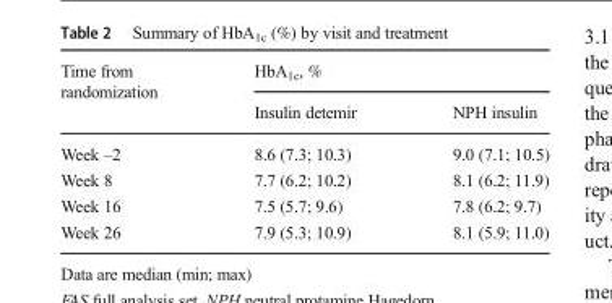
<table><thead><tr><td rowspan="2">Time from randomization</td><td colspan="2">HbA<sub>1c</sub>, %</td></tr><tr><td>Insulin detemir</td><td>NPH insulin</td></tr></thead><tbody><tr><td>Week –2</td><td>8.6 (7.3; 10.3)</td><td>9.0 (7.1; 10.5)</td></tr><tr><td>Week 8</td><td>7.7 (6.2; 10.2)</td><td>8.1 (6.2; 11.9)</td></tr><tr><td>Week 16</td><td>7.5 (5.7; 9.6)</td><td>7.8 (6.2; 9.7)</td></tr><tr><td>Week 26</td><td>7.9 (5.3; 10.9)</td><td>8.1 (5.9; 11.0)</td></tr></tbody></table>